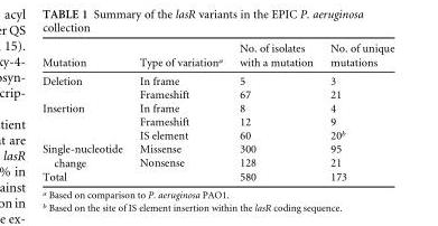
<table><thead><tr><td>Mutation</td><td>Type of variation<sup>a</sup></td><td>No. of isolates with a mutation</td><td>No. of unique mutations</td></tr></thead><tbody><tr><td rowspan="2">Deletion</td><td>In frame</td><td>5</td><td>3</td></tr><tr><td>Frameshift</td><td>67</td><td>21</td></tr><tr><td rowspan="3">Insertion</td><td>In frame</td><td>8</td><td>4</td></tr><tr><td>Frameshift</td><td>12</td><td>9</td></tr><tr><td>IS element</td><td>60</td><td>20<sup>b</sup></td></tr><tr><td rowspan="2">Single-nucleotide change</td><td>Missense</td><td>300</td><td>95</td></tr><tr><td>Nonsense</td><td>128</td><td>21</td></tr><tr><td>Total</td><td></td><td>580</td><td>173</td></tr></tbody></table>